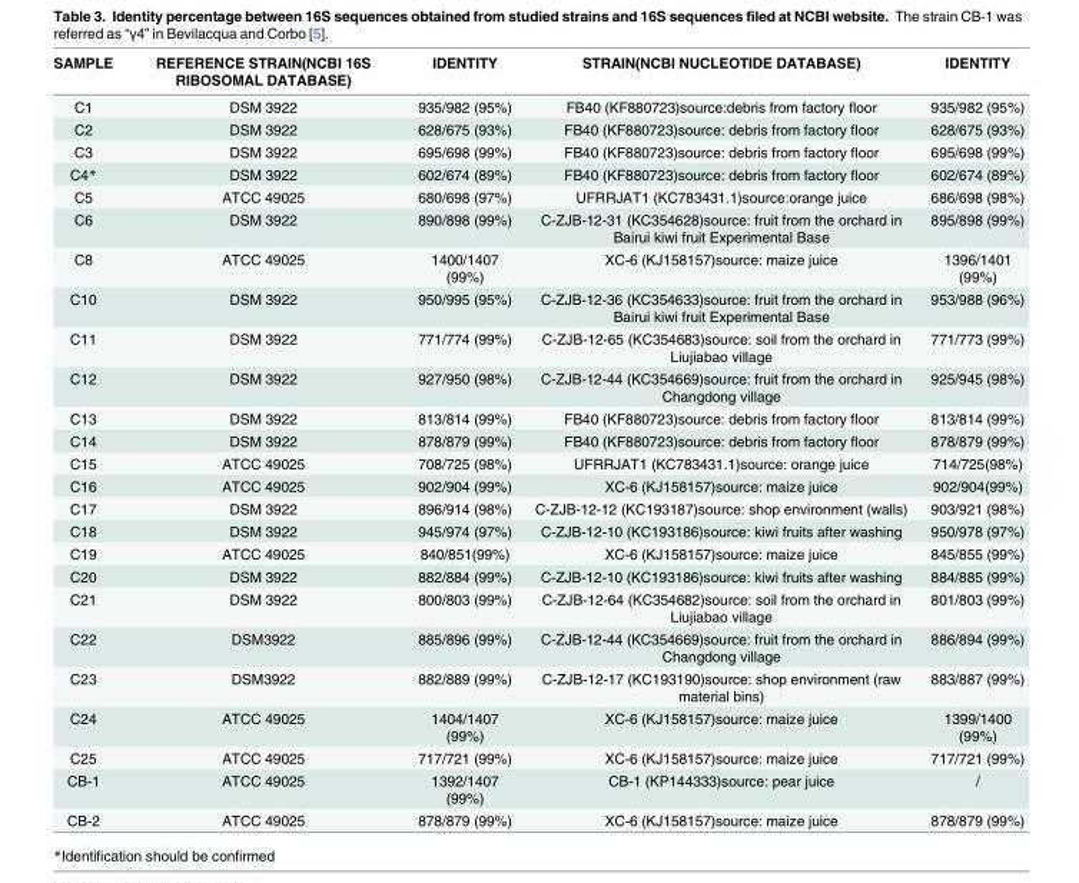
<table><thead><tr><td>SAMPLE</td><td>REFERENCE STRAIN(NCBI 16S RIBOSOMAL DATABASE)</td><td>IDENTITY</td><td>STRAIN(NCBI NUCLEOTIDE DATABASE)</td><td>IDENTITY</td></tr></thead><tbody><tr><td>C1</td><td>DSM 3922</td><td>935/982 (95%)</td><td>FB40 (KF880723)source:debris from factory floor</td><td>935/982 (95%)</td></tr><tr><td>C2</td><td>DSM 3922</td><td>628/675 (93%)</td><td>FB40 (KF880723)source: debris from factory floor</td><td>628/675 (93%)</td></tr><tr><td>C3</td><td>DSM 3922</td><td>695/698 (99%)</td><td>FB40 (KF880723)source: debris from factory floor</td><td>695/698 (99%)</td></tr><tr><td>C4*</td><td>DSM 3922</td><td>602/674 (89%)</td><td>FB40 (KF880723)source: debris from factory floor</td><td>602/674 (89%)</td></tr><tr><td>C5</td><td>ATCC 49025</td><td>680/698 (97%)</td><td>UFRRJAT1 (KC783431.1)source:orange juice</td><td>686/698 (98%)</td></tr><tr><td>C6</td><td>DSM 3922</td><td>890/898 (99%)</td><td>C-ZJB-12-31 (KC354628)source: fruit from the orchard in Bairui kiwi fruit Experimental Base</td><td>895/898 (99%)</td></tr><tr><td>C8</td><td>ATCC 49025</td><td>1400/1407 (99%)</td><td>XC-6 (KJ158157)source: maize juice</td><td>1396/1401 (99%)</td></tr><tr><td>C10</td><td>DSM 3922</td><td>950/995 (95%)</td><td>C-ZJB-12-36 (KC354633)source: fruit from the orchard in Bairui kiwi fruit Experimental Base</td><td>953/988 (96%)</td></tr><tr><td>C11</td><td>DSM 3922</td><td>771/774 (99%)</td><td>C-ZJB-12-65 (KC354683)source: soil from the orchard in Liujiabao village</td><td>771/773 (99%)</td></tr><tr><td>C12</td><td>DSM 3922</td><td>927/950 (98%)</td><td>C-ZJB-12-44 (KC354669)source: fruit from the orchard in Changdong village</td><td>925/945 (98%)</td></tr><tr><td>C13</td><td>DSM 3922</td><td>813/814 (99%)</td><td>FB40 (KF880723)source: debris from factory floor</td><td>813/814 (99%)</td></tr><tr><td>C14</td><td>DSM 3922</td><td>878/879 (99%)</td><td>FB40 (KF880723)source: debris from factory floor</td><td>878/879 (99%)</td></tr><tr><td>C15</td><td>ATCC 49025</td><td>708/725 (98%)</td><td>UFRRJAT1 (KC783431.1)source: orange juice</td><td>714/725(98%)</td></tr><tr><td>C16</td><td>ATCC 49025</td><td>902/904 (99%)</td><td>XC-6 (KJ158157)source: maize juice</td><td>902/904(99%)</td></tr><tr><td>C17</td><td>DSM 3922</td><td>896/914 (98%)</td><td>C-ZJB-12-12 (KC193187)source: shop environment (walls)</td><td>903/921 (98%)</td></tr><tr><td>C18</td><td>DSM 3922</td><td>945/974 (97%)</td><td>C-ZJB-12-10 (KC193186)source: kiwi fruits after washing</td><td>950/978 (97%)</td></tr><tr><td>C19</td><td>ATCC 49025</td><td>840/851(99%)</td><td>XC-6 (KJ158157)source: maize juice</td><td>845/855 (99%)</td></tr><tr><td>C20</td><td>DSM 3922</td><td>882/884 (99%)</td><td>C-ZJB-12-10 (KC193186)source: kiwi fruits after washing</td><td>884/885 (99%)</td></tr><tr><td>C21</td><td>DSM 3922</td><td>800/803 (99%)</td><td>C-ZJB-12-64 (KC354682)source: soil from the orchard in Liujiabao village</td><td>801/803 (99%)</td></tr><tr><td>C22</td><td>DSM3922</td><td>885/896 (99%)</td><td>C-ZJB-12-44 (KC354669)source: fruit from the orchard in Changdong village</td><td>886/894 (99%)</td></tr><tr><td>C23</td><td>DSM3922</td><td>882/889 (99%)</td><td>C-ZJB-12-17 (KC193190)source: shop environment (raw material bins)</td><td>883/887 (99%)</td></tr><tr><td>C24</td><td>ATCC 49025</td><td>1404/1407 (99%)</td><td>XC-6 (KJ158157)source: maize juice</td><td>1399/1400 (99%)</td></tr><tr><td>C25</td><td>ATCC 49025</td><td>717/721 (99%)</td><td>XC-6 (KJ158157)source: maize juice</td><td>717/721 (99%)</td></tr><tr><td>CB-1</td><td>ATCC 49025</td><td>1392/1407 (99%)</td><td>CB-1 (KP144333)source: pear juice</td><td>/</td></tr><tr><td>CB-2</td><td>ATCC 49025</td><td>878/879 (99%)</td><td>XC-6 (KJ158157)source: maize juice</td><td>878/879 (99%)</td></tr></tbody></table>